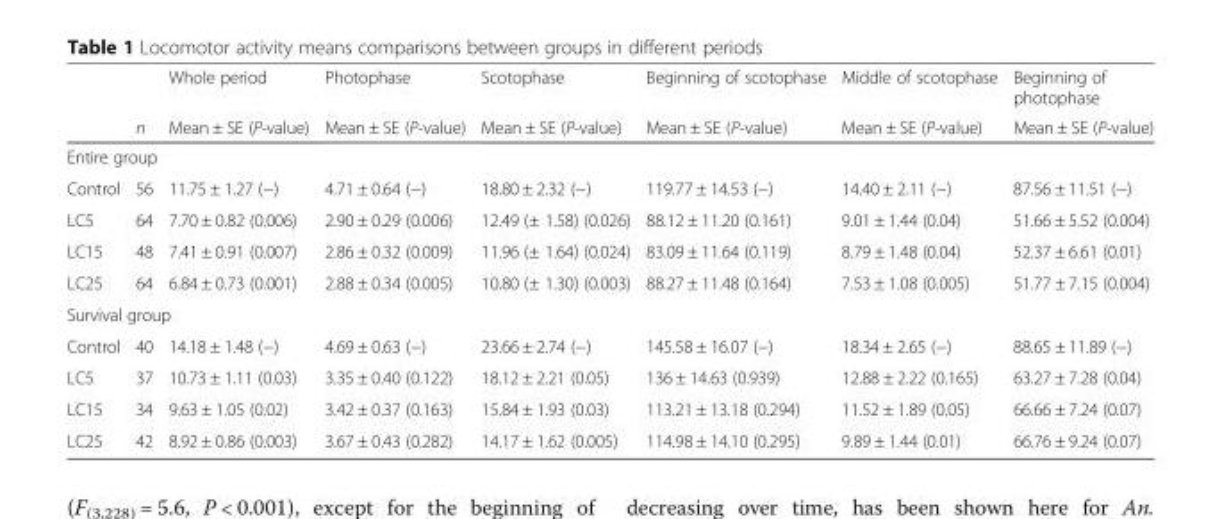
<table><thead><tr><td rowspan="2"></td><td rowspan="2">n</td><td rowspan="2">Whole period Mean ± SE (P-value)</td><td rowspan="2">Photophase Mean ± SE (P-value)</td><td rowspan="2">Scotophase Mean ± SE (P-value)</td><td rowspan="2">Beginning of scotophase Mean ± SE (P-value)</td><td rowspan="2">Middle of scotophase Mean ± SE (P-value)</td><td rowspan="2">Beginning of photophase Mean ± SE (P-value)</td></tr><tr></tr></thead><tbody><tr><td colspan="8">Entire group</td></tr><tr><td>Control</td><td>56</td><td>11.75 ± 1.27 (−)</td><td>4.71 ± 0.64 (−)</td><td>18.80 ± 2.32 (−)</td><td>119.77 ± 14.53 (−)</td><td>14.40 ± 2.11 (−)</td><td>87.56 ± 11.51 (−)</td></tr><tr><td>LC5</td><td>64</td><td>7.70 ± 0.82 (0.006)</td><td>2.90 ± 0.29 (0.006)</td><td>12.49 (± 1.58) (0.026)</td><td>88.12 ± 11.20 (0.161)</td><td>9.01 ± 1.44 (0.04)</td><td>51.66 ± 5.52 (0.004)</td></tr><tr><td>LC15</td><td>48</td><td>7.41 ± 0.91 (0.007)</td><td>2.86 ± 0.32 (0.009)</td><td>11.96 (± 1.64) (0.024)</td><td>83.09 ± 11.64 (0.119)</td><td>8.79 ± 1.48 (0.04)</td><td>52.37 ± 6.61 (0.01)</td></tr><tr><td>LC25</td><td>64</td><td>6.84 ± 0.73 (0.001)</td><td>2.88 ± 0.34 (0.005)</td><td>10.80 (± 1.30) (0.003)</td><td>88.27 ± 11.48 (0.164)</td><td>7.53 ± 1.08 (0.005)</td><td>51.77 ± 7.15 (0.004)</td></tr><tr><td colspan="8">Survival group</td></tr><tr><td>Control</td><td>40</td><td>14.18 ± 1.48 (−)</td><td>4.69 ± 0.63 (−)</td><td>23.66 ± 2.74 (−)</td><td>145.58 ± 16.07 (−)</td><td>18.34 ± 2.65 (−)</td><td>88.65 ± 11.89 (−)</td></tr><tr><td>LC5</td><td>37</td><td>10.73 ± 1.11 (0.03)</td><td>3.35 ± 0.40 (0.122)</td><td>18.12 ± 2.21 (0.05)</td><td>136 ± 14.63 (0.939)</td><td>12.88 ± 2.22 (0.165)</td><td>63.27 ± 7.28 (0.04)</td></tr><tr><td>LC15</td><td>34</td><td>9.63 ± 1.05 (0.02)</td><td>3.42 ± 0.37 (0.163)</td><td>15.84 ± 1.93 (0.03)</td><td>113.21 ± 13.18 (0.294)</td><td>11.52 ± 1.89 (0.05)</td><td>66.66 ± 7.24 (0.07)</td></tr><tr><td>LC25</td><td>42</td><td>8.92 ± 0.86 (0.003)</td><td>3.67 ± 0.43 (0.282)</td><td>14.17 ± 1.62 (0.005)</td><td>114.98 ± 14.10 (0.295)</td><td>9.89 ± 1.44 (0.01)</td><td>66.76 ± 9.24 (0.07)</td></tr></tbody></table>